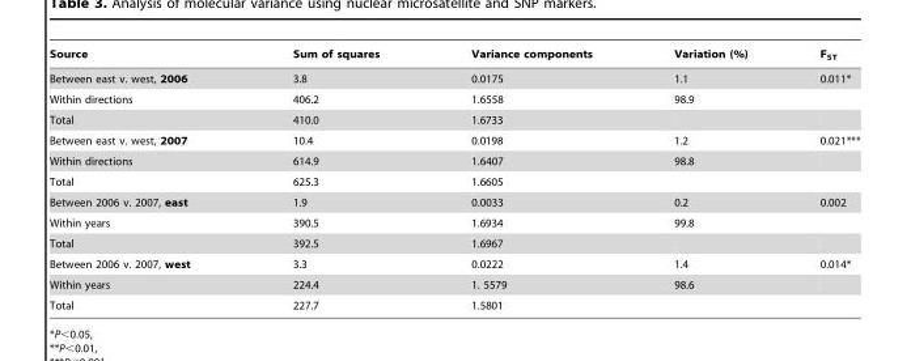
<table><thead><tr><td>Source</td><td>Sum of squares</td><td>Variance components</td><td>Variation (%)</td><td>F<sub>ST</sub></td></tr></thead><tbody><tr><td>Between east v. west, 2006</td><td>3.8</td><td>0.0175</td><td>1.1</td><td>0.011*</td></tr><tr><td>Within directions</td><td>406.2</td><td>1.6558</td><td>98.9</td><td></td></tr><tr><td>Total</td><td>410.0</td><td>1.6733</td><td></td><td></td></tr><tr><td>Between east v. west, 2007</td><td>10.4</td><td>0.0198</td><td>1.2</td><td>0.021***</td></tr><tr><td>Within directions</td><td>614.9</td><td>1.6407</td><td>98.8</td><td></td></tr><tr><td>Total</td><td>625.3</td><td>1.6605</td><td></td><td></td></tr><tr><td>Between 2006 v. 2007, east</td><td>1.9</td><td>0.0033</td><td>0.2</td><td>0.002</td></tr><tr><td>Within years</td><td>390.5</td><td>1.6934</td><td>99.8</td><td></td></tr><tr><td>Total</td><td>392.5</td><td>1.6967</td><td></td><td></td></tr><tr><td>Between 2006 v. 2007, west</td><td>3.3</td><td>0.0222</td><td>1.4</td><td>0.014*</td></tr><tr><td>Within years</td><td>224.4</td><td>1. 5579</td><td>98.6</td><td></td></tr><tr><td>Total</td><td>227.7</td><td>1.5801</td><td></td><td></td></tr></tbody></table>